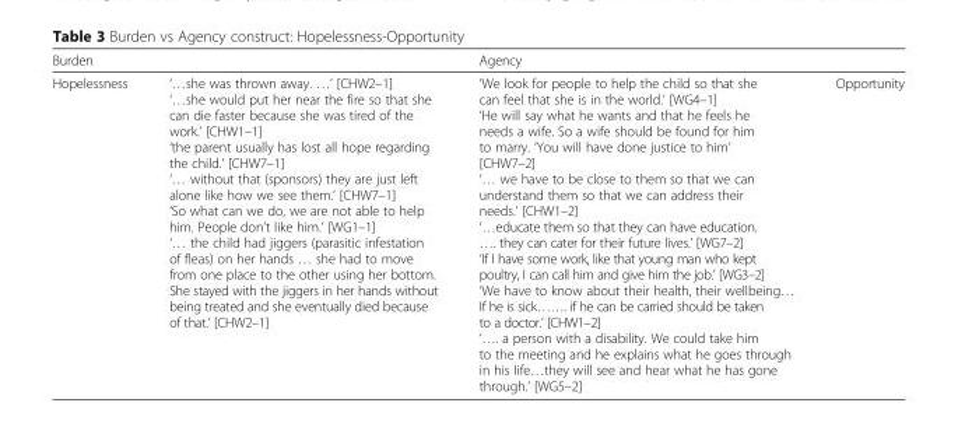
<table><thead><tr><td colspan="2">Burden</td><td colspan="2">Agency</td></tr><tr><td>Hopelessness</td><td>‘…she was thrown away. …’ [CHW2–1] ‘…she would put her near the fire so that she can die faster because she was tired of the work.’ [CHW1–1] ‘the parent usually has lost all hope regarding the child.’ [CHW7–1] ‘… without that (sponsors) they are just left alone like how we see them.’ [CHW7–1] ‘So what can we do, we are not able to help him. People don’t like him.’ [WG1–1] ‘… the child had jiggers (parasitic infestation of fleas) on her hands … she had to move from one place to the other using her bottom. She stayed with the jiggers in her hands without being treated and she eventually died because of that.’ [CHW2–1]</td><td>‘We look for people to help the child so that she can feel that she is in the world.’ [WG4–1] ‘He will say what he wants and that he feels he needs a wife. So a wife should be found for him to marry. ‘You will have done justice to him’ [CHW7–2] ‘… we have to be close to them so that we can understand them so that we can address their needs.’ [CHW1–2] ‘…educate them so that they can have education. …. they can cater for their future lives.’ [WG7–2] ‘If I have some work, like that young man who kept poultry, I can call him and give him the job.’ [WG3–2] ‘We have to know about their health, their wellbeing… If he is sick……. if he can be carried should be taken to a doctor.’ [CHW1–2] ‘…. a person with a disability. We could take him to the meeting and he explains what he goes through in his life…they will see and hear what he has gone through.’ [WG5–2]</td><td>Opportunity</td></tr></thead><tbody></tbody></table>